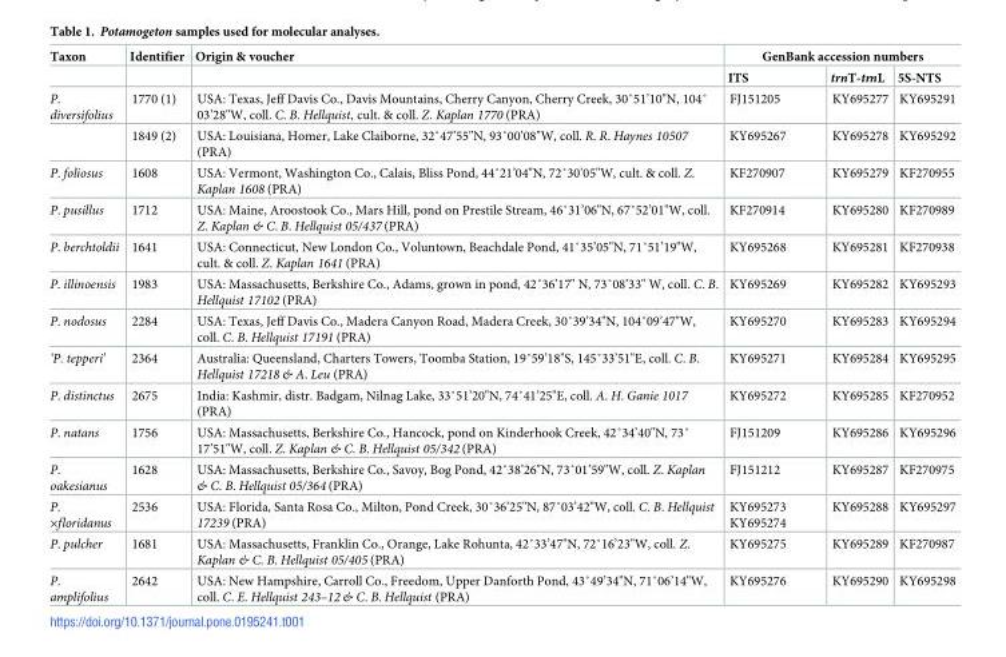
<table><thead><tr><td rowspan="2">Taxon</td><td rowspan="2">Identifier</td><td rowspan="2">Origin &amp; voucher</td><td colspan="3">GenBank accession numbers</td></tr><tr><td>ITS</td><td>trnT-trnL</td><td>5S-NTS</td></tr></thead><tbody><tr><td rowspan="2">P. diversifolius</td><td>1770 (1)</td><td>USA: Texas, Jeff Davis Co., Davis Mountains, Cherry Canyon, Cherry Creek, 30˚51’10&quot;N, 104˚ 03’28&quot;W, coll. C. B. Hellquist, cult. &amp; coll. Z. Kaplan 1770 (PRA)</td><td>FJ151205</td><td>KY695277</td><td>KY695291</td></tr><tr><td>1849 (2)</td><td>USA: Louisiana, Homer, Lake Claiborne, 32˚47’55&quot;N, 93˚00’08&quot;W, coll. R. R. Haynes 10507 (PRA)</td><td>KY695267</td><td>KY695278</td><td>KY695292</td></tr><tr><td>P. foliosus</td><td>1608</td><td>USA: Vermont, Washington Co., Calais, Bliss Pond, 44˚21’04&quot;N, 72˚30’05&quot;W, cult. &amp; coll. Z. Kaplan 1608 (PRA)</td><td>KF270907</td><td>KY695279</td><td>KF270955</td></tr><tr><td>P. pusillus</td><td>1712</td><td>USA: Maine, Aroostook Co., Mars Hill, pond on Prestile Stream, 46˚31’06&quot;N, 67˚52’01&quot;W, coll. Z. Kaplan &amp; C. B. Hellquist 05/437 (PRA)</td><td>KF270914</td><td>KY695280</td><td>KF270989</td></tr><tr><td>P. berchtoldii</td><td>1641</td><td>USA: Connecticut, New London Co., Voluntown, Beachdale Pond, 41˚35’05&quot;N, 71˚51’19&quot;W, cult. &amp; coll. Z. Kaplan 1641 (PRA)</td><td>KY695268</td><td>KY695281</td><td>KF270938</td></tr><tr><td>P. illinoensis</td><td>1983</td><td>USA: Massachusetts, Berkshire Co., Adams, grown in pond, 42˚36’17&quot; N, 73˚08’33&quot; W, coll. C. B. Hellquist 17102 (PRA)</td><td>KY695269</td><td>KY695282</td><td>KY695293</td></tr><tr><td>P. nodosus</td><td>2284</td><td>USA: Texas, Jeff Davis Co., Madera Canyon Road, Madera Creek, 30˚39’34&quot;N, 104˚09’47&quot;W, coll. C. B. Hellquist 17191 (PRA)</td><td>KY695270</td><td>KY695283</td><td>KY695294</td></tr><tr><td>‘P. tepperi’</td><td>2364</td><td>Australia: Queensland, Charters Towers, Toomba Station, 19˚59’18&quot;S, 145˚33’51&quot;E, coll. C. B. Hellquist 17218 &amp; A. Leu (PRA)</td><td>KY695271</td><td>KY695284</td><td>KY695295</td></tr><tr><td>P. distinctus</td><td>2675</td><td>India: Kashmir, distr. Badgam, Nilnag Lake, 33˚51’20&quot;N, 74˚41’25&quot;E, coll. A. H. Ganie 1017 (PRA)</td><td>KY695272</td><td>KY695285</td><td>KF270952</td></tr><tr><td>P. natans</td><td>1756</td><td>USA: Massachusetts, Berkshire Co., Hancock, pond on Kinderhook Creek, 42˚34’40&quot;N, 73˚ 17’51&quot;W, coll. Z. Kaplan &amp; C. B. Hellquist 05/342 (PRA)</td><td>FJ151209</td><td>KY695286</td><td>KY695296</td></tr><tr><td>P. oakesianus</td><td>1628</td><td>USA: Massachusetts, Berkshire Co., Savoy, Bog Pond, 42˚38’26&quot;N, 73˚01’59&quot;W, coll. Z. Kaplan &amp; C. B. Hellquist 05/364 (PRA)</td><td>FJ151212</td><td>KY695287</td><td>KF270975</td></tr><tr><td>P. ×floridanus</td><td>2536</td><td>USA: Florida, Santa Rosa Co., Milton, Pond Creek, 30˚36’25&quot;N, 87˚03’42&quot;W, coll. C. B. Hellquist 17239 (PRA)</td><td>KY695273 KY695274</td><td>KY695288</td><td>KY695297</td></tr><tr><td>P. pulcher</td><td>1681</td><td>USA: Massachusetts, Franklin Co., Orange, Lake Rohunta, 42˚33’47&quot;N, 72˚16’23&quot;W, coll. Z. Kaplan &amp; C. B. Hellquist 05/405 (PRA)</td><td>KY695275</td><td>KY695289</td><td>KF270987</td></tr><tr><td>P. amplifolius</td><td>2642</td><td>USA: New Hampshire, Carroll Co., Freedom, Upper Danforth Pond, 43˚49’34&quot;N, 71˚06’14&quot;W, coll. C. E. Hellquist 243–12 &amp; C. B. Hellquist (PRA)</td><td>KY695276</td><td>KY695290</td><td>KY695298</td></tr></tbody></table>